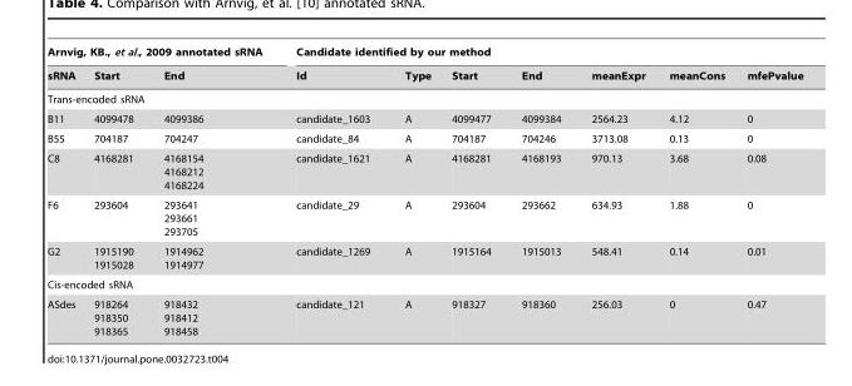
<table><thead><tr><td colspan="3">Arnvig, KB., et al., 2009 annotated sRNA</td><td colspan="7">Candidate identified by our method</td></tr><tr><td>sRNA</td><td>Start</td><td>End</td><td>Id</td><td>Type</td><td>Start</td><td>End</td><td>meanExpr</td><td>meanCons</td><td>mfePvalue</td></tr></thead><tbody><tr><td colspan="10">Trans-encoded sRNA</td></tr><tr><td>B11</td><td>4099478</td><td>4099386</td><td>candidate_1603</td><td>A</td><td>4099477</td><td>4099384</td><td>2564.23</td><td>4.12</td><td>0</td></tr><tr><td>B55</td><td>704187</td><td>704247</td><td>candidate_84</td><td>A</td><td>704187</td><td>704246</td><td>3713.08</td><td>0.13</td><td>0</td></tr><tr><td>C8</td><td>4168281</td><td>4168154 4168212 4168224</td><td>candidate_1621</td><td>A</td><td>4168281</td><td>4168193</td><td>970.13</td><td>3.68</td><td>0.08</td></tr><tr><td>F6</td><td>293604</td><td>293641 293661 293705</td><td>candidate_29</td><td>A</td><td>293604</td><td>293662</td><td>634.93</td><td>1.88</td><td>0</td></tr><tr><td>G2</td><td>1915190 1915028</td><td>1914962 1914977</td><td>candidate_1269</td><td>A</td><td>1915164</td><td>1915013</td><td>548.41</td><td>0.14</td><td>0.01</td></tr><tr><td colspan="10">Cis-encoded sRNA</td></tr><tr><td>ASdes</td><td>918264 918350 918365</td><td>918432 918412 918458</td><td>candidate_121</td><td>A</td><td>918327</td><td>918360</td><td>256.03</td><td>0</td><td>0.47</td></tr></tbody></table>